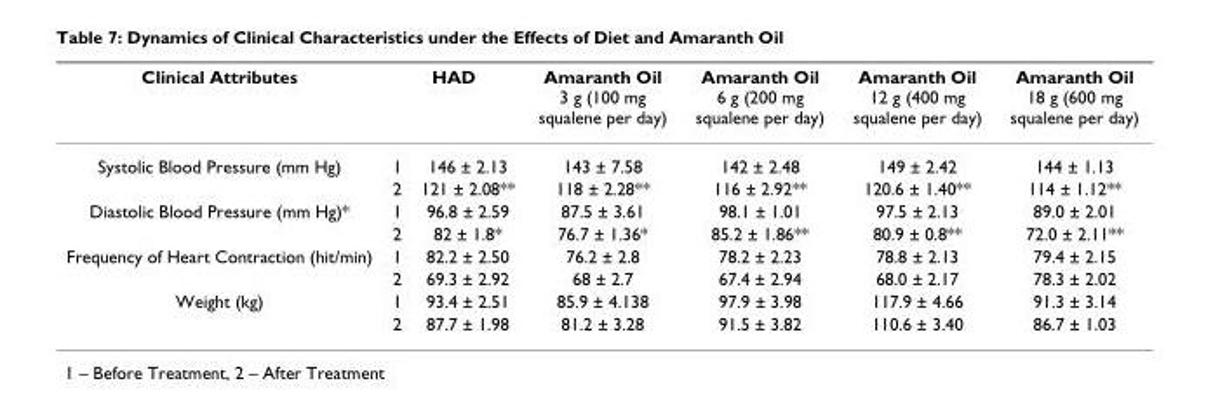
<table><thead><tr><td rowspan="2">Clinical Attributes Systolic Blood Pressure (mm Hg)</td><td colspan="2">HAD</td><td rowspan="2">Amaranth Oil 3 g (100 mg squalene per day) 143 ± 7.58</td><td rowspan="2">Amaranth Oil 6 g (200 mg squalene per day) 142 ± 2.48</td><td rowspan="2">Amaranth Oil 12 g (400 mg squalene per day) 149 ± 2.42</td><td rowspan="2">Amaranth Oil 18 g (600 mg squalene per day) 144 ± 1.13</td></tr><tr><td>1</td><td>146 ± 2.13</td></tr></thead><tbody><tr><td></td><td>2</td><td>121 ± 2.08**</td><td>118 ± 2.28**</td><td>116 ± 2.92**</td><td>120.6 ± 1.40**</td><td>114 ± 1.12**</td></tr><tr><td rowspan="2">Diastolic Blood Pressure (mm Hg)*</td><td>1</td><td>96.8 ± 2.59</td><td>87.5 ± 3.61</td><td>98.1 ± 1.01</td><td>97.5 ± 2.13</td><td>89.0 ± 2.01</td></tr><tr><td>2</td><td>82 ± 1.8*</td><td>76.7 ± 1.36*</td><td>85.2 ± 1.86**</td><td>80.9 ± 0.8**</td><td>72.0 ± 2.11**</td></tr><tr><td rowspan="2">Frequency of Heart Contraction (hit/min)</td><td>1</td><td>82.2 ± 2.50</td><td>76.2 ± 2.8</td><td>78.2 ± 2.23</td><td>78.8 ± 2.13</td><td>79.4 ± 2.15</td></tr><tr><td>2</td><td>69.3 ± 2.92</td><td>68 ± 2.7</td><td>67.4 ± 2.94</td><td>68.0 ± 2.17</td><td>78.3 ± 2.02</td></tr><tr><td rowspan="2">Weight (kg)</td><td>1</td><td>93.4 ± 2.51</td><td>85.9 ± 4.138</td><td>97.9 ± 3.98</td><td>117.9 ± 4.66</td><td>91.3 ± 3.14</td></tr><tr><td>2</td><td>87.7 ± 1.98</td><td>81.2 ± 3.28</td><td>91.5 ± 3.82</td><td>110.6 ± 3.40</td><td>86.7 ± 1.03</td></tr></tbody></table>